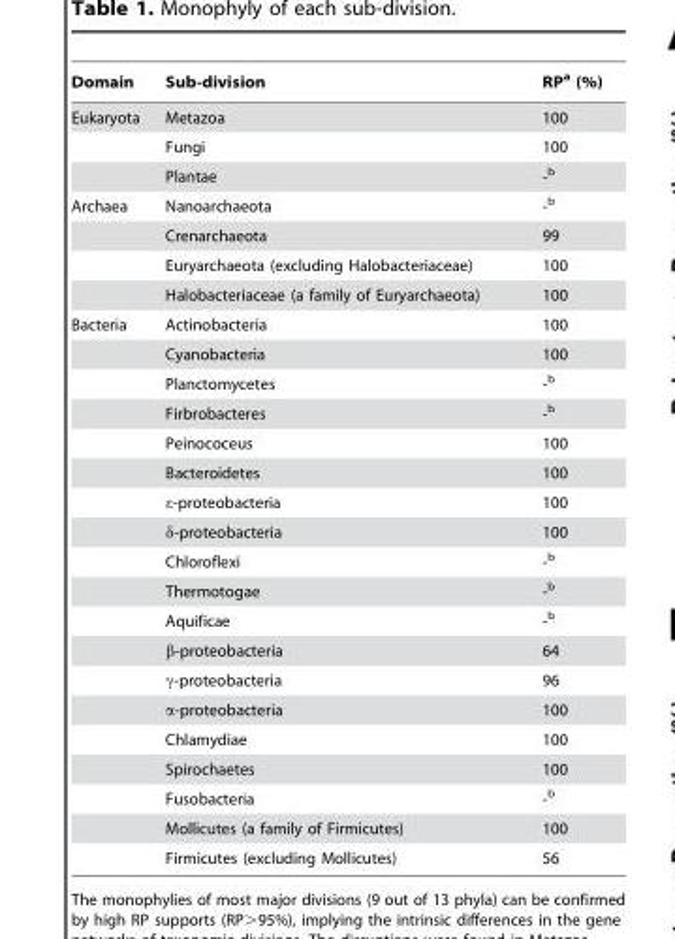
<table><thead><tr><td>Domain</td><td>Sub-division</td><td>RP<sup>a</sup> (%)</td></tr></thead><tbody><tr><td rowspan="3">Eukaryota</td><td>Metazoa</td><td>100</td></tr><tr><td>Fungi</td><td>100</td></tr><tr><td>Plantae</td><td>-b</td></tr><tr><td rowspan="4">Archaea</td><td>Nanoarchaeota</td><td>-b</td></tr><tr><td>Crenarchaeota</td><td>99</td></tr><tr><td>Euryarchaeota (excluding Halobacteriaceae)</td><td>100</td></tr><tr><td>Halobacteriaceae (a family of Euryarchaeota)</td><td>100</td></tr><tr><td rowspan="19">Bacteria</td><td>Actinobacteria</td><td>100</td></tr><tr><td>Cyanobacteria</td><td>100</td></tr><tr><td>Planctomycetes</td><td>-b</td></tr><tr><td>Firbrobacteres</td><td>-b</td></tr><tr><td>Peinococeus</td><td>100</td></tr><tr><td>Bacteroidetes</td><td>100</td></tr><tr><td>ε-proteobacteria</td><td>100</td></tr><tr><td>δ-proteobacteria</td><td>100</td></tr><tr><td>Chloroflexi</td><td>-b</td></tr><tr><td>Thermotogae</td><td>-b</td></tr><tr><td>Aquificae</td><td>-b</td></tr><tr><td>β-proteobacteria</td><td>64</td></tr><tr><td>γ-proteobacteria</td><td>96</td></tr><tr><td>α-proteobacteria</td><td>100</td></tr><tr><td>Chlamydiae</td><td>100</td></tr><tr><td>Spirochaetes</td><td>100</td></tr><tr><td>Fusobacteria</td><td>-b</td></tr><tr><td>Mollicutes (a family of Firmicutes)</td><td>100</td></tr><tr><td>Firmicutes (excluding Mollicutes)</td><td>56</td></tr></tbody></table>